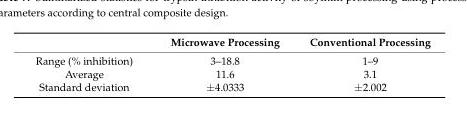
<table><thead><tr><td></td><td>Microwave Processing</td><td>Conventional Processing</td></tr></thead><tbody><tr><td>Range (% inhibition)</td><td>3–18.8</td><td>1–9</td></tr><tr><td>Average</td><td>11.6</td><td>3.1</td></tr><tr><td>Standard deviation</td><td>±4.0333</td><td>±2.002</td></tr></tbody></table>